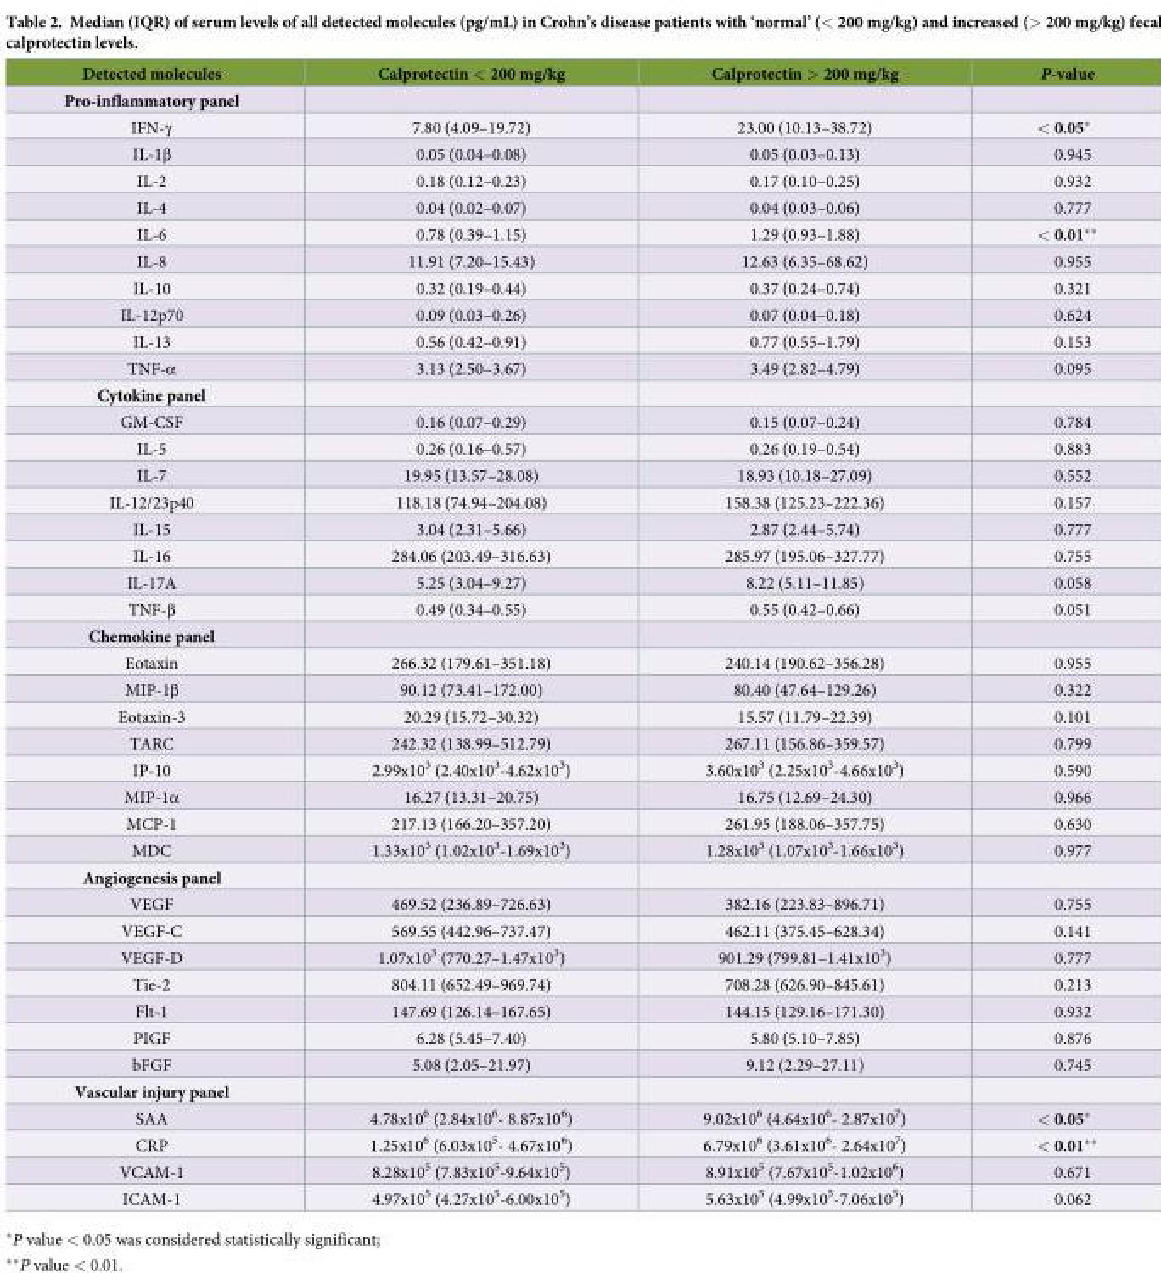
<table><thead><tr><td>Detected molecules</td><td>Calprotectin &lt; 200 mg/kg</td><td>Calprotectin &gt; 200 mg/kg</td><td>P-value</td></tr></thead><tbody><tr><td colspan="4">Pro-inflammatory panel</td></tr><tr><td>IFN-γ</td><td>7.80 (4.09–19.72)</td><td>23.00 (10.13–38.72)</td><td>&lt; 0.05*</td></tr><tr><td>IL-1β</td><td>0.05 (0.04–0.08)</td><td>0.05 (0.03–0.13)</td><td>0.945</td></tr><tr><td>IL-2</td><td>0.18 (0.12–0.23)</td><td>0.17 (0.10–0.25)</td><td>0.932</td></tr><tr><td>IL-4</td><td>0.04 (0.02–0.07)</td><td>0.04 (0.03–0.06)</td><td>0.777</td></tr><tr><td>IL-6</td><td>0.78 (0.39–1.15)</td><td>1.29 (0.93–1.88)</td><td>&lt; 0.01**</td></tr><tr><td>IL-8</td><td>11.91 (7.20–15.43)</td><td>12.63 (6.35–68.62)</td><td>0.955</td></tr><tr><td>IL-10</td><td>0.32 (0.19–0.44)</td><td>0.37 (0.24–0.74)</td><td>0.321</td></tr><tr><td>IL-12p70</td><td>0.09 (0.03–0.26)</td><td>0.07 (0.04–0.18)</td><td>0.624</td></tr><tr><td>IL-13</td><td>0.56 (0.42–0.91)</td><td>0.77 (0.55–1.79)</td><td>0.153</td></tr><tr><td>TNF-α</td><td>3.13 (2.50–3.67)</td><td>3.49 (2.82–4.79)</td><td>0.095</td></tr><tr><td colspan="4">Cytokine panel</td></tr><tr><td>GM-CSF</td><td>0.16 (0.07–0.29)</td><td>0.15 (0.07–0.24)</td><td>0.784</td></tr><tr><td>IL-5</td><td>0.26 (0.16–0.57)</td><td>0.26 (0.19–0.54)</td><td>0.883</td></tr><tr><td>IL-7</td><td>19.95 (13.57–28.08)</td><td>18.93 (10.18–27.09)</td><td>0.552</td></tr><tr><td>IL-12/23p40</td><td>118.18 (74.94–204.08)</td><td>158.38 (125.23–222.36)</td><td>0.157</td></tr><tr><td>IL-15</td><td>3.04 (2.31–5.66)</td><td>2.87 (2.44–5.74)</td><td>0.777</td></tr><tr><td>IL-16</td><td>284.06 (203.49–316.63)</td><td>285.97 (195.06–327.77)</td><td>0.755</td></tr><tr><td>IL-17A</td><td>5.25 (3.04–9.27)</td><td>8.22 (5.11–11.85)</td><td>0.058</td></tr><tr><td>TNF-β</td><td>0.49 (0.34–0.55)</td><td>0.55 (0.42–0.66)</td><td>0.051</td></tr><tr><td colspan="4">Chemokine panel</td></tr><tr><td>Eotaxin</td><td>266.32 (179.61–351.18)</td><td>240.14 (190.62–356.28)</td><td>0.955</td></tr><tr><td>MIP-1β</td><td>90.12 (73.41–172.00)</td><td>80.40 (47.64–129.26)</td><td>0.322</td></tr><tr><td>Eotaxin-3</td><td>20.29 (15.72–30.32)</td><td>15.57 (11.79–22.39)</td><td>0.101</td></tr><tr><td>TARC</td><td>242.32 (138.99–512.79)</td><td>267.11 (156.86–359.57)</td><td>0.799</td></tr><tr><td>IP-10</td><td>2.99x10<sup>3</sup> (2.40x10<sup>3</sup>-4.62x10<sup>3</sup>)</td><td>3.60x10<sup>3</sup> (2.25x10<sup>3</sup>-4.66x10<sup>3</sup>)</td><td>0.590</td></tr><tr><td>MIP-1α</td><td>16.27 (13.31–20.75)</td><td>16.75 (12.69–24.30)</td><td>0.966</td></tr><tr><td>MCP-1</td><td>217.13 (166.20–357.20)</td><td>261.95 (188.06–357.75)</td><td>0.630</td></tr><tr><td>MDC</td><td>1.33x10<sup>3</sup> (1.02x10<sup>3</sup>-1.69x10<sup>3</sup>)</td><td>1.28x10<sup>3</sup> (1.07x10<sup>3</sup>-1.66x10<sup>3</sup>)</td><td>0.977</td></tr><tr><td colspan="4">Angiogenesis panel</td></tr><tr><td>VEGF</td><td>469.52 (236.89–726.63)</td><td>382.16 (223.83–896.71)</td><td>0.755</td></tr><tr><td>VEGF-C</td><td>569.55 (442.96–737.47)</td><td>462.11 (375.45–628.34)</td><td>0.141</td></tr><tr><td>VEGF-D</td><td>1.07x10<sup>3</sup> (770.27–1.47x10<sup>3</sup>)</td><td>901.29 (799.81–1.41x10<sup>3</sup>)</td><td>0.777</td></tr><tr><td>Tie-2</td><td>804.11 (652.49–969.74)</td><td>708.28 (626.90–845.61)</td><td>0.213</td></tr><tr><td>Flt-1</td><td>147.69 (126.14–167.65)</td><td>144.15 (129.16–171.30)</td><td>0.932</td></tr><tr><td>PIGF</td><td>6.28 (5.45–7.40)</td><td>5.80 (5.10–7.85)</td><td>0.876</td></tr><tr><td>bFGF</td><td>5.08 (2.05–21.97)</td><td>9.12 (2.29–27.11)</td><td>0.745</td></tr><tr><td colspan="4">Vascular injury panel</td></tr><tr><td>SAA</td><td>4.78x10<sup>6</sup> (2.84x10<sup>6</sup>- 8.87x10<sup>6</sup>)</td><td>9.02x10<sup>6</sup> (4.64x10<sup>6</sup>- 2.87x10<sup>7</sup>)</td><td>&lt; 0.05*</td></tr><tr><td>CRP</td><td>1.25x10<sup>6</sup> (6.03x10<sup>5</sup>- 4.67x10<sup>6</sup>)</td><td>6.79x10<sup>6</sup> (3.61x10<sup>6</sup>- 2.64x10<sup>7</sup>)</td><td>&lt; 0.01**</td></tr><tr><td>VCAM-1</td><td>8.28x10<sup>5</sup> (7.83x10<sup>5</sup>-9.64x10<sup>5</sup>)</td><td>8.91x10<sup>5</sup> (7.67x10<sup>5</sup>-1.02x10<sup>6</sup>)</td><td>0.671</td></tr><tr><td>ICAM-1</td><td>4.97x10<sup>5</sup> (4.27x10<sup>5</sup>-6.00x10<sup>5</sup>)</td><td>5.63x10<sup>5</sup> (4.99x10<sup>5</sup>-7.06x10<sup>5</sup>)</td><td>0.062</td></tr></tbody></table>